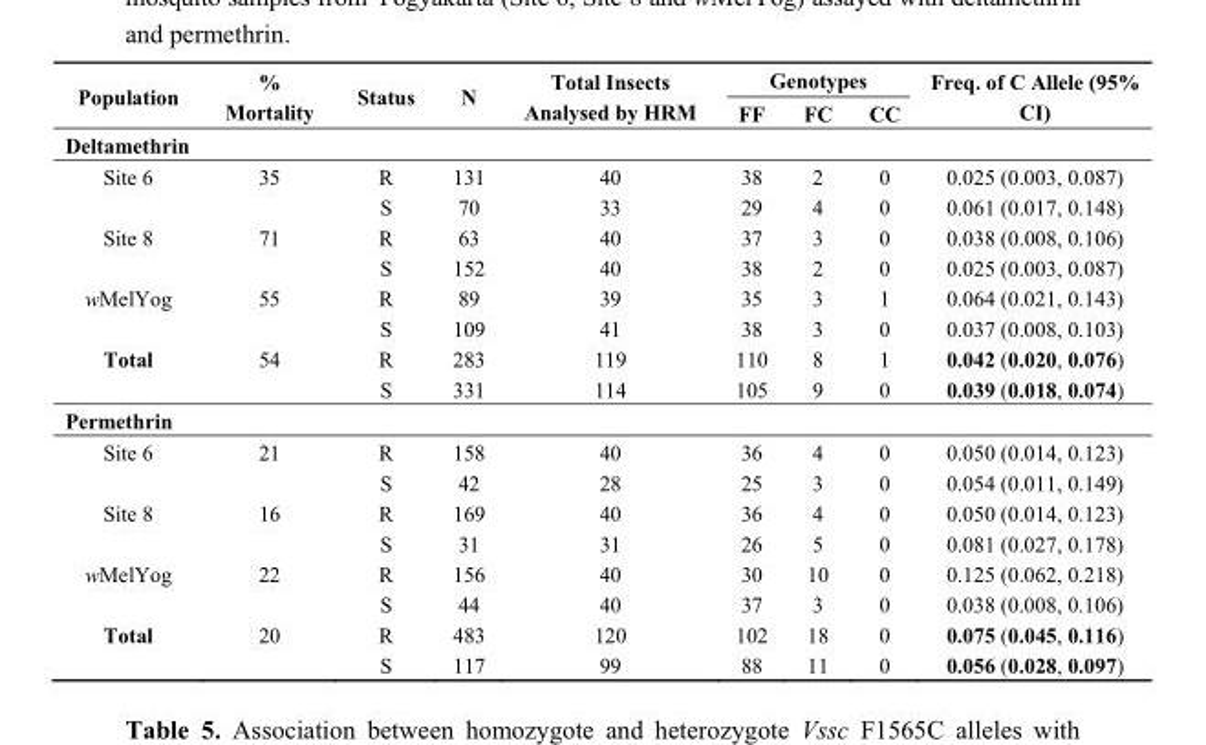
<table><thead><tr><td rowspan="2">Population</td><td rowspan="2">% Mortality</td><td rowspan="2">Status</td><td rowspan="2">N</td><td rowspan="2">Total Insects Analysed by HRM</td><td colspan="3">Genotypes</td><td rowspan="2">Freq. of C Allele (95% CI)</td></tr><tr><td>FF</td><td>FC</td><td>CC</td></tr></thead><tbody><tr><td colspan="9">Deltamethrin</td></tr><tr><td rowspan="2">Site 6</td><td>35</td><td>R</td><td>131</td><td>40</td><td>38</td><td>2</td><td>0</td><td>0.025 (0.003, 0.087)</td></tr><tr><td></td><td>S</td><td>70</td><td>33</td><td>29</td><td>4</td><td>0</td><td>0.061 (0.017, 0.148)</td></tr><tr><td rowspan="2">Site 8</td><td>71</td><td>R</td><td>63</td><td>40</td><td>37</td><td>3</td><td>0</td><td>0.038 (0.008, 0.106)</td></tr><tr><td></td><td>S</td><td>152</td><td>40</td><td>38</td><td>2</td><td>0</td><td>0.025 (0.003, 0.087)</td></tr><tr><td rowspan="2">wMelYog</td><td>55</td><td>R</td><td>89</td><td>39</td><td>35</td><td>3</td><td>1</td><td>0.064 (0.021, 0.143)</td></tr><tr><td></td><td>S</td><td>109</td><td>41</td><td>38</td><td>3</td><td>0</td><td>0.037 (0.008, 0.103)</td></tr><tr><td rowspan="2">Total</td><td>54</td><td>R</td><td>283</td><td>119</td><td>110</td><td>8</td><td>1</td><td>0.042 (0.020, 0.076)</td></tr><tr><td></td><td>S</td><td>331</td><td>114</td><td>105</td><td>9</td><td>0</td><td>0.039 (0.018, 0.074)</td></tr><tr><td colspan="9">Permethrin</td></tr><tr><td rowspan="2">Site 6</td><td>21</td><td>R</td><td>158</td><td>40</td><td>36</td><td>4</td><td>0</td><td>0.050 (0.014, 0.123)</td></tr><tr><td></td><td>S</td><td>42</td><td>28</td><td>25</td><td>3</td><td>0</td><td>0.054 (0.011, 0.149)</td></tr><tr><td rowspan="2">Site 8</td><td>16</td><td>R</td><td>169</td><td>40</td><td>36</td><td>4</td><td>0</td><td>0.050 (0.014, 0.123)</td></tr><tr><td></td><td>S</td><td>31</td><td>31</td><td>26</td><td>5</td><td>0</td><td>0.081 (0.027, 0.178)</td></tr><tr><td rowspan="2">wMelYog</td><td>22</td><td>R</td><td>156</td><td>40</td><td>30</td><td>10</td><td>0</td><td>0.125 (0.062, 0.218)</td></tr><tr><td></td><td>S</td><td>44</td><td>40</td><td>37</td><td>3</td><td>0</td><td>0.038 (0.008, 0.106)</td></tr><tr><td rowspan="2">Total</td><td>20</td><td>R</td><td>483</td><td>120</td><td>102</td><td>18</td><td>0</td><td>0.075 (0.045, 0.116)</td></tr><tr><td></td><td>S</td><td>117</td><td>99</td><td>88</td><td>11</td><td>0</td><td>0.056 (0.028, 0.097)</td></tr></tbody></table>